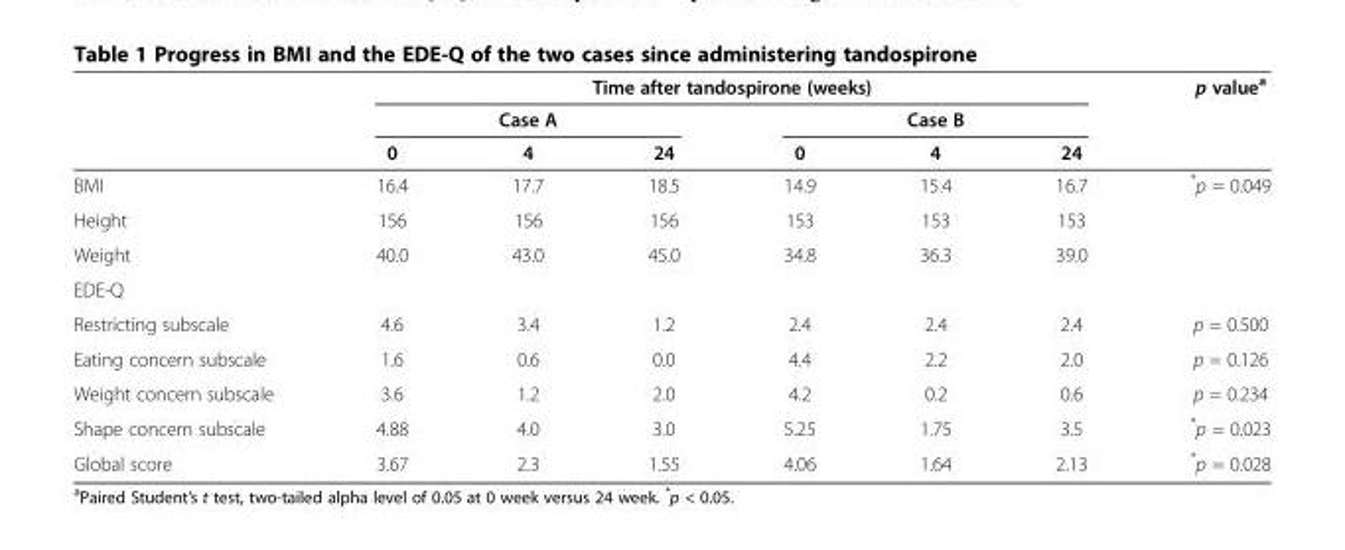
<table><thead><tr><td rowspan="3"></td><td colspan="6">Time after tandospirone (weeks)</td><td rowspan="3">p value<sup>a</sup></td></tr><tr><td colspan="3">Case A</td><td colspan="3">Case B</td></tr><tr><td>0</td><td>4</td><td>24</td><td>0</td><td>4</td><td>24</td></tr></thead><tbody><tr><td>BMI</td><td>16.4</td><td>17.7</td><td>18.5</td><td>14.9</td><td>15.4</td><td>16.7</td><td>*p = 0.049</td></tr><tr><td>Height</td><td>156</td><td>156</td><td>156</td><td>153</td><td>153</td><td>153</td><td></td></tr><tr><td>Weight</td><td>40.0</td><td>43.0</td><td>45.0</td><td>34.8</td><td>36.3</td><td>39.0</td><td></td></tr><tr><td colspan="8">EDE-Q</td></tr><tr><td>Restricting subscale</td><td>4.6</td><td>3.4</td><td>1.2</td><td>2.4</td><td>2.4</td><td>2.4</td><td>p = 0.500</td></tr><tr><td>Eating concern subscale</td><td>1.6</td><td>0.6</td><td>0.0</td><td>4.4</td><td>2.2</td><td>2.0</td><td>p = 0.126</td></tr><tr><td>Weight concern subscale</td><td>3.6</td><td>1.2</td><td>2.0</td><td>4.2</td><td>0.2</td><td>0.6</td><td>p = 0.234</td></tr><tr><td>Shape concern subscale</td><td>4.88</td><td>4.0</td><td>3.0</td><td>5.25</td><td>1.75</td><td>3.5</td><td>*p = 0.023</td></tr><tr><td>Global score</td><td>3.67</td><td>2.3</td><td>1.55</td><td>4.06</td><td>1.64</td><td>2.13</td><td>*p = 0.028</td></tr></tbody></table>